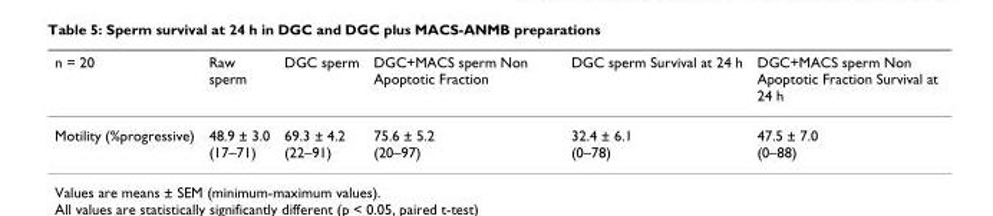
<table><thead><tr><td>n = 20</td><td>Raw sperm</td><td>DGC sperm</td><td>DGC+MACS sperm Non Apoptotic Fraction</td><td>DGC sperm Survival at 24 h</td><td>DGC+MACS sperm Non Apoptotic Fraction Survival at 24 h</td></tr></thead><tbody><tr><td>Motility (%progressive)</td><td>48.9 ± 3.0 (17–71)</td><td>69.3 ± 4.2 (22–91)</td><td>75.6 ± 5.2 (20–97)</td><td>32.4 ± 6.1 (0–78)</td><td>47.5 ± 7.0 (0–88)</td></tr></tbody></table>